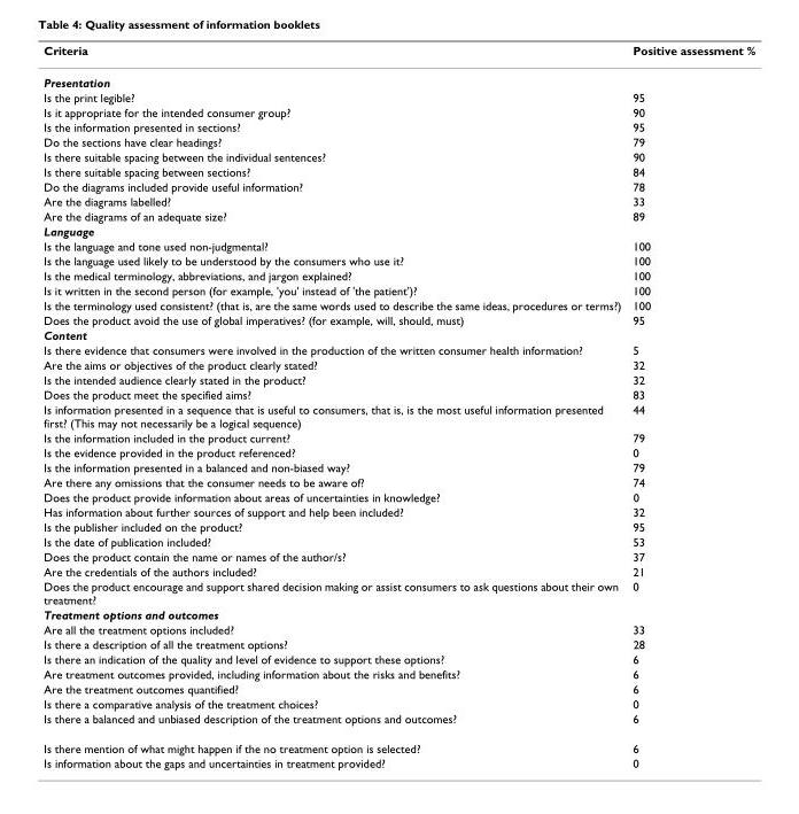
<table><thead><tr><td>Criteria</td><td>Positive assessment %</td></tr></thead><tbody><tr><td colspan="2">Presentation</td></tr><tr><td>Is the print legible?</td><td>95</td></tr><tr><td>Is it appropriate for the intended consumer group?</td><td>90</td></tr><tr><td>Is the information presented in sections?</td><td>95</td></tr><tr><td>Do the sections have clear headings?</td><td>79</td></tr><tr><td>Is there suitable spacing between the individual sentences?</td><td>90</td></tr><tr><td>Is there suitable spacing between sections?</td><td>84</td></tr><tr><td>Do the diagrams included provide useful information?</td><td>78</td></tr><tr><td>Are the diagrams labelled?</td><td>33</td></tr><tr><td>Are the diagrams of an adequate size?</td><td>89</td></tr><tr><td colspan="2">Language</td></tr><tr><td>Is the language and tone used non-judgmental?</td><td>100</td></tr><tr><td>Is the language used likely to be understood by the consumers who use it?</td><td>100</td></tr><tr><td>Is the medical terminology, abbreviations, and jargon explained?</td><td>100</td></tr><tr><td>Is it written in the second person (for example, &#x27;you&#x27; instead of &#x27;the patient&#x27;)?</td><td>100</td></tr><tr><td>Is the terminology used consistent? (that is, are the same words used to describe the same ideas, procedures or terms?)</td><td>100</td></tr><tr><td>Does the product avoid the use of global imperatives? (for example, will, should, must)</td><td>95</td></tr><tr><td colspan="2">Content</td></tr><tr><td>Is there evidence that consumers were involved in the production of the written consumer health information?</td><td>5</td></tr><tr><td>Are the aims or objectives of the product clearly stated?</td><td>32</td></tr><tr><td>Is the intended audience clearly stated in the product?</td><td>32</td></tr><tr><td>Does the product meet the specified aims?</td><td>83</td></tr><tr><td>Is information presented in a sequence that is useful to consumers, that is, is the most useful information presented first? (This may not necessarily be a logical sequence)</td><td>44</td></tr><tr><td>Is the information included in the product current?</td><td>79</td></tr><tr><td>Is the evidence provided in the product referenced?</td><td>0</td></tr><tr><td>Is the information presented in a balanced and non-biased way?</td><td>79</td></tr><tr><td>Are there any omissions that the consumer needs to be aware of?</td><td>74</td></tr><tr><td>Does the product provide information about areas of uncertainties in knowledge?</td><td>0</td></tr><tr><td>Has information about further sources of support and help been included?</td><td>32</td></tr><tr><td>Is the publisher included on the product?</td><td>95</td></tr><tr><td>Is the date of publication included?</td><td>53</td></tr><tr><td>Does the product contain the name or names of the author/s?</td><td>37</td></tr><tr><td>Are the credentials of the authors included?</td><td>21</td></tr><tr><td>Does the product encourage and support shared decision making or assist consumers to ask questions about their own treatment?</td><td>0</td></tr><tr><td colspan="2">Treatment options and outcomes</td></tr><tr><td>Are all the treatment options included?</td><td>33</td></tr><tr><td>Is there a description of all the treatment options?</td><td>28</td></tr><tr><td>Is there an indication of the quality and level of evidence to support these options?</td><td>6</td></tr><tr><td>Are treatment outcomes provided, including information about the risks and benefits?</td><td>6</td></tr><tr><td>Are the treatment outcomes quantified?</td><td>6</td></tr><tr><td>Is there a comparative analysis of the treatment choices?</td><td>0</td></tr><tr><td>Is there a balanced and unbiased description of the treatment options and outcomes?</td><td>6</td></tr><tr><td>Is there mention of what might happen if the no treatment option is selected?</td><td>6</td></tr><tr><td>Is information about the gaps and uncertainties in treatment provided?</td><td>0</td></tr></tbody></table>